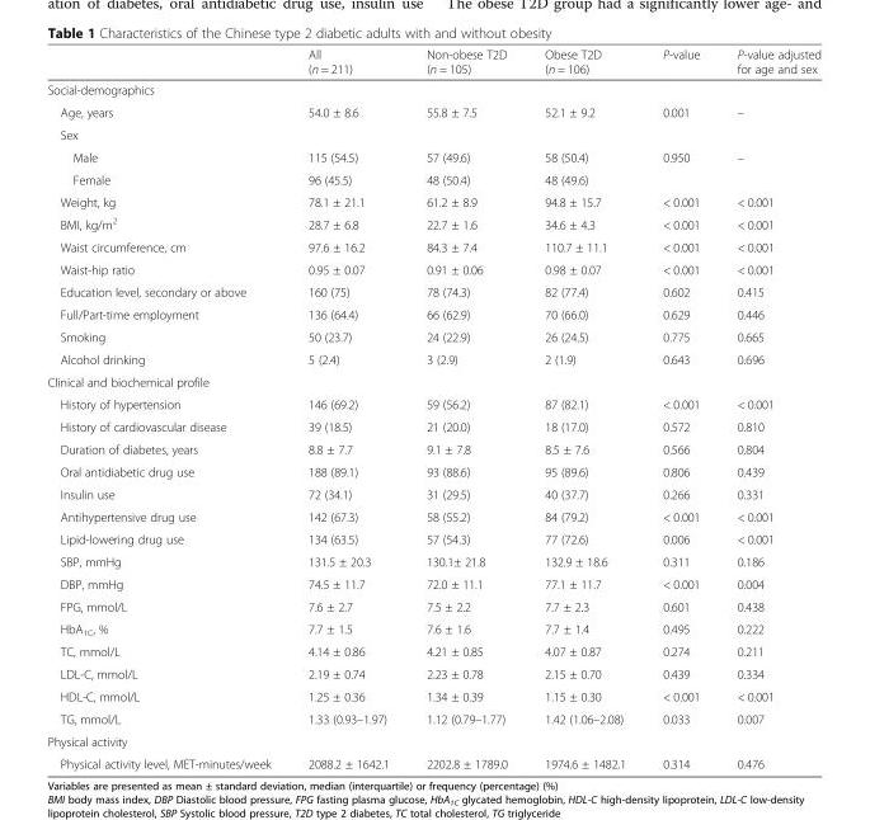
<table><thead><tr><td></td><td>All (n = 211)</td><td>Non-obese T2D (n = 105)</td><td>Obese T2D (n = 106)</td><td>P-value</td><td>P-value adjusted for age and sex</td></tr></thead><tbody><tr><td colspan="6">Social-demographics</td></tr><tr><td>Age, years</td><td>54.0 ± 8.6</td><td>55.8 ± 7.5</td><td>52.1 ± 9.2</td><td>0.001</td><td>–</td></tr><tr><td colspan="6">Sex</td></tr><tr><td>Male</td><td>115 (54.5)</td><td>57 (49.6)</td><td>58 (50.4)</td><td>0.950</td><td>–</td></tr><tr><td>Female</td><td>96 (45.5)</td><td>48 (50.4)</td><td>48 (49.6)</td><td></td><td></td></tr><tr><td>Weight, kg</td><td>78.1 ± 21.1</td><td>61.2 ± 8.9</td><td>94.8 ± 15.7</td><td>&lt; 0.001</td><td>&lt; 0.001</td></tr><tr><td>BMI, kg/m<sup>2</sup></td><td>28.7 ± 6.8</td><td>22.7 ± 1.6</td><td>34.6 ± 4.3</td><td>&lt; 0.001</td><td>&lt; 0.001</td></tr><tr><td>Waist circumference, cm</td><td>97.6 ± 16.2</td><td>84.3 ± 7.4</td><td>110.7 ± 11.1</td><td>&lt; 0.001</td><td>&lt; 0.001</td></tr><tr><td>Waist-hip ratio</td><td>0.95 ± 0.07</td><td>0.91 ± 0.06</td><td>0.98 ± 0.07</td><td>&lt; 0.001</td><td>&lt; 0.001</td></tr><tr><td>Education level, secondary or above</td><td>160 (75)</td><td>78 (74.3)</td><td>82 (77.4)</td><td>0.602</td><td>0.415</td></tr><tr><td>Full/Part-time employment</td><td>136 (64.4)</td><td>66 (62.9)</td><td>70 (66.0)</td><td>0.629</td><td>0.446</td></tr><tr><td>Smoking</td><td>50 (23.7)</td><td>24 (22.9)</td><td>26 (24.5)</td><td>0.775</td><td>0.665</td></tr><tr><td>Alcohol drinking</td><td>5 (2.4)</td><td>3 (2.9)</td><td>2 (1.9)</td><td>0.643</td><td>0.696</td></tr><tr><td colspan="6">Clinical and biochemical profile</td></tr><tr><td>History of hypertension</td><td>146 (69.2)</td><td>59 (56.2)</td><td>87 (82.1)</td><td>&lt; 0.001</td><td>&lt; 0.001</td></tr><tr><td>History of cardiovascular disease</td><td>39 (18.5)</td><td>21 (20.0)</td><td>18 (17.0)</td><td>0.572</td><td>0.810</td></tr><tr><td>Duration of diabetes, years</td><td>8.8 ± 7.7</td><td>9.1 ± 7.8</td><td>8.5 ± 7.6</td><td>0.566</td><td>0.804</td></tr><tr><td>Oral antidiabetic drug use</td><td>188 (89.1)</td><td>93 (88.6)</td><td>95 (89.6)</td><td>0.806</td><td>0.439</td></tr><tr><td>Insulin use</td><td>72 (34.1)</td><td>31 (29.5)</td><td>40 (37.7)</td><td>0.266</td><td>0.331</td></tr><tr><td>Antihypertensive drug use</td><td>142 (67.3)</td><td>58 (55.2)</td><td>84 (79.2)</td><td>&lt; 0.001</td><td>&lt; 0.001</td></tr><tr><td>Lipid-lowering drug use</td><td>134 (63.5)</td><td>57 (54.3)</td><td>77 (72.6)</td><td>0.006</td><td>&lt; 0.001</td></tr><tr><td>SBP, mmHg</td><td>131.5 ± 20.3</td><td>130.1± 21.8</td><td>132.9 ± 18.6</td><td>0.311</td><td>0.186</td></tr><tr><td>DBP, mmHg</td><td>74.5 ± 11.7</td><td>72.0 ± 11.1</td><td>77.1 ± 11.7</td><td>&lt; 0.001</td><td>0.004</td></tr><tr><td>FPG, mmol/L</td><td>7.6 ± 2.7</td><td>7.5 ± 2.2</td><td>7.7 ± 2.3</td><td>0.601</td><td>0.438</td></tr><tr><td>HbA<sub>1C</sub>, %</td><td>7.7 ± 1.5</td><td>7.6 ± 1.6</td><td>7.7 ± 1.4</td><td>0.495</td><td>0.222</td></tr><tr><td>TC, mmol/L</td><td>4.14 ± 0.86</td><td>4.21 ± 0.85</td><td>4.07 ± 0.87</td><td>0.274</td><td>0.211</td></tr><tr><td>LDL-C, mmol/L</td><td>2.19 ± 0.74</td><td>2.23 ± 0.78</td><td>2.15 ± 0.70</td><td>0.439</td><td>0.334</td></tr><tr><td>HDL-C, mmol/L</td><td>1.25 ± 0.36</td><td>1.34 ± 0.39</td><td>1.15 ± 0.30</td><td>&lt; 0.001</td><td>&lt; 0.001</td></tr><tr><td>TG, mmol/L</td><td>1.33 (0.93–1.97)</td><td>1.12 (0.79–1.77)</td><td>1.42 (1.06–2.08)</td><td>0.033</td><td>0.007</td></tr><tr><td colspan="6">Physical activity</td></tr><tr><td>Physical activity level, MET-minutes/week</td><td>2088.2 ± 1642.1</td><td>2202.8 ± 1789.0</td><td>1974.6 ± 1482.1</td><td>0.314</td><td>0.476</td></tr></tbody></table>